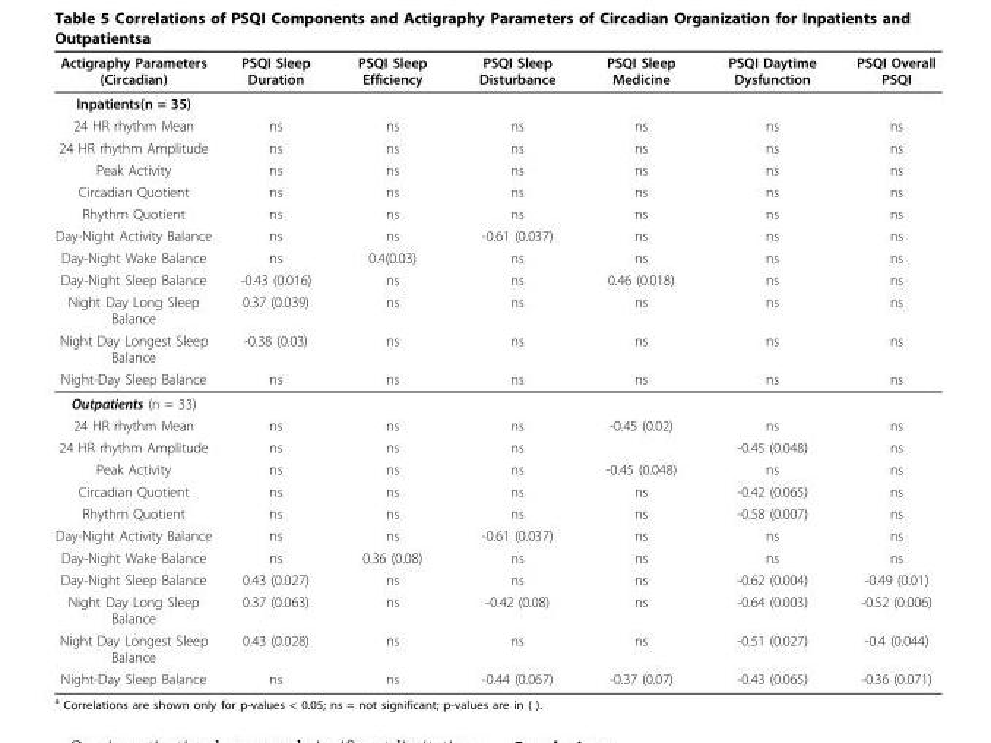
<table><thead><tr><td>Actigraphy Parameters (Circadian)</td><td>PSQI Sleep Duration</td><td>PSQI Sleep Efficiency</td><td>PSQI Sleep Disturbance</td><td>PSQI Sleep Medicine</td><td>PSQI Daytime Dysfunction</td><td>PSQI Overall PSQI</td></tr></thead><tbody><tr><td colspan="7">Inpatients(n = 35)</td></tr><tr><td>24 HR rhythm Mean</td><td>ns</td><td>ns</td><td>ns</td><td>ns</td><td>ns</td><td>ns</td></tr><tr><td>24 HR rhythm Amplitude</td><td>ns</td><td>ns</td><td>ns</td><td>ns</td><td>ns</td><td>ns</td></tr><tr><td>Peak Activity</td><td>ns</td><td>ns</td><td>ns</td><td>ns</td><td>ns</td><td>ns</td></tr><tr><td>Circadian Quotient</td><td>ns</td><td>ns</td><td>ns</td><td>ns</td><td>ns</td><td>ns</td></tr><tr><td>Rhythm Quotient</td><td>ns</td><td>ns</td><td>ns</td><td>ns</td><td>ns</td><td>ns</td></tr><tr><td>Day-Night Activity Balance</td><td>ns</td><td>ns</td><td>-0.61 (0.037)</td><td>ns</td><td>ns</td><td>ns</td></tr><tr><td>Day-Night Wake Balance</td><td>ns</td><td>0.4(0.03)</td><td>ns</td><td>ns</td><td>ns</td><td>ns</td></tr><tr><td>Day-Night Sleep Balance</td><td>-0.43 (0.016)</td><td>ns</td><td>ns</td><td>0.46 (0.018)</td><td>ns</td><td>ns</td></tr><tr><td>Night Day Long Sleep Balance</td><td>0.37 (0.039)</td><td>ns</td><td>ns</td><td>ns</td><td>ns</td><td>ns</td></tr><tr><td>Night Day Longest Sleep Balance</td><td>-0.38 (0.03)</td><td>ns</td><td>ns</td><td>ns</td><td>ns</td><td>ns</td></tr><tr><td>Night-Day Sleep Balance</td><td>ns</td><td>ns</td><td>ns</td><td>ns</td><td>ns</td><td>ns</td></tr><tr><td colspan="7">Outpatients (n = 33)</td></tr><tr><td>24 HR rhythm Mean</td><td>ns</td><td>ns</td><td>ns</td><td>-0.45 (0.02)</td><td>ns</td><td>ns</td></tr><tr><td>24 HR rhythm Amplitude</td><td>ns</td><td>ns</td><td>ns</td><td></td><td>-0.45 (0.048)</td><td>ns</td></tr><tr><td>Peak Activity</td><td>ns</td><td>ns</td><td>ns</td><td>-0.45 (0.048)</td><td>ns</td><td>ns</td></tr><tr><td>Circadian Quotient</td><td>ns</td><td>ns</td><td>ns</td><td>ns</td><td>-0.42 (0.065)</td><td>ns</td></tr><tr><td>Rhythm Quotient</td><td>ns</td><td>ns</td><td>ns</td><td>ns</td><td>-0.58 (0.007)</td><td>ns</td></tr><tr><td>Day-Night Activity Balance</td><td>ns</td><td>ns</td><td>-0.61 (0.037)</td><td>ns</td><td>ns</td><td>ns</td></tr><tr><td>Day-Night Wake Balance</td><td>ns</td><td>0.36 (0.08)</td><td>ns</td><td>ns</td><td>ns</td><td>ns</td></tr><tr><td>Day-Night Sleep Balance</td><td>0.43 (0.027)</td><td>ns</td><td>ns</td><td>ns</td><td>-0.62 (0.004)</td><td>-0.49 (0.01)</td></tr><tr><td>Night Day Long Sleep Balance</td><td>0.37 (0.063)</td><td>ns</td><td>-0.42 (0.08)</td><td>ns</td><td>-0.64 (0.003)</td><td>-0.52 (0.006)</td></tr><tr><td>Night Day Longest Sleep Balance</td><td>0.43 (0.028)</td><td>ns</td><td>ns</td><td>ns</td><td>-0.51 (0.027)</td><td>-0.4 (0.044)</td></tr><tr><td>Night-Day Sleep Balance</td><td>ns</td><td>ns</td><td>-0.44 (0.067)</td><td>-0.37 (0.07)</td><td>-0.43 (0.065)</td><td>-0.36 (0.071)</td></tr></tbody></table>